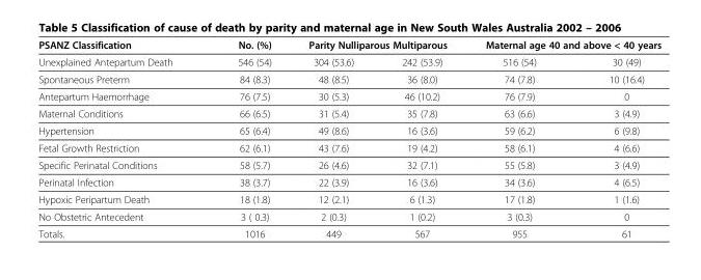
<table><thead><tr><td rowspan="2">PSANZ Classification Unexplained Antepartum Death</td><td rowspan="2">No. (%) 546 (54)</td><td colspan="2">Parity Nulliparous Multiparous</td><td colspan="2">Maternal age 40 and above &lt; 40 years</td></tr><tr><td>304 (53.6)</td><td>242 (53.9)</td><td>516 (54)</td><td>30 (49)</td></tr></thead><tbody><tr><td>Spontaneous Preterm</td><td>84 (8.3)</td><td>48 (8.5)</td><td>36 (8.0)</td><td>74 (7.8)</td><td>10 (16.4)</td></tr><tr><td>Antepartum Haemorrhage</td><td>76 (7.5)</td><td>30 (5.3)</td><td>46 (10.2)</td><td>76 (7.9)</td><td>0</td></tr><tr><td>Maternal Conditions</td><td>66 (6.5)</td><td>31 (5.4)</td><td>35 (7.8)</td><td>63 (6.6)</td><td>3 (4.9)</td></tr><tr><td>Hypertension</td><td>65 (6.4)</td><td>49 (8.6)</td><td>16 (3.6)</td><td>59 (6.2)</td><td>6 (9.8)</td></tr><tr><td>Fetal Growth Restriction</td><td>62 (6.1)</td><td>43 (7.6)</td><td>19 (4.2)</td><td>58 (6.1)</td><td>4 (6.6)</td></tr><tr><td>Specific Perinatal Conditions</td><td>58 (5.7)</td><td>26 (4.6)</td><td>32 (7.1)</td><td>55 (5.8)</td><td>3 (4.9)</td></tr><tr><td>Perinatal Infection</td><td>38 (3.7)</td><td>22 (3.9)</td><td>16 (3.6)</td><td>34 (3.6)</td><td>4 (6.5)</td></tr><tr><td>Hypoxic Peripartum Death</td><td>18 (1.8)</td><td>12 (2.1)</td><td>6 (1.3)</td><td>17 (1.8)</td><td>1 (1.6)</td></tr><tr><td>No Obstetric Antecedent</td><td>3 ( 0.3)</td><td>2 (0.3)</td><td>1 (0.2)</td><td>3 (0.3)</td><td>0</td></tr><tr><td>Totals.</td><td>1016</td><td>449</td><td>567</td><td>955</td><td>61</td></tr></tbody></table>